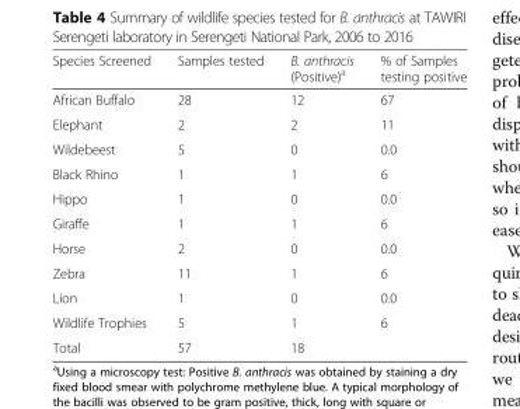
<table><thead><tr><td>Species Screened</td><td>Samples tested</td><td>B. anthracis (Positive)<sup>a</sup></td><td>% of Samples testing positive</td></tr></thead><tbody><tr><td>African Buffalo</td><td>28</td><td>12</td><td>67</td></tr><tr><td>Elephant</td><td>2</td><td>2</td><td>11</td></tr><tr><td>Wildebeest</td><td>5</td><td>0</td><td>0.0</td></tr><tr><td>Black Rhino</td><td>1</td><td>1</td><td>6</td></tr><tr><td>Hippo</td><td>1</td><td>0</td><td>0.0</td></tr><tr><td>Giraffe</td><td>1</td><td>1</td><td>6</td></tr><tr><td>Horse</td><td>2</td><td>0</td><td>0.0</td></tr><tr><td>Zebra</td><td>11</td><td>1</td><td>6</td></tr><tr><td>Lion</td><td>1</td><td>0</td><td>0.0</td></tr><tr><td>Wildlife Trophies</td><td>5</td><td>1</td><td>6</td></tr><tr><td>Total</td><td>57</td><td>18</td><td></td></tr></tbody></table>